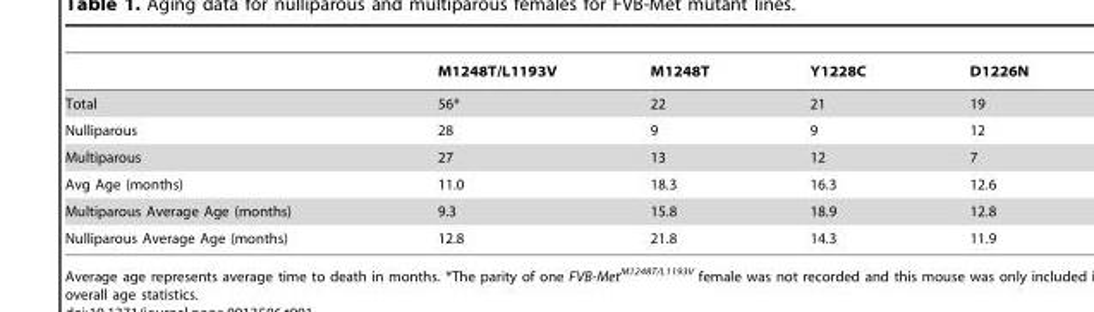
<table><thead><tr><td></td><td>M1248T/L1193V</td><td>M1248T</td><td>Y1228C</td><td>D1226N</td></tr></thead><tbody><tr><td>Total</td><td>56*</td><td>22</td><td>21</td><td>19</td></tr><tr><td>Nulliparous</td><td>28</td><td>9</td><td>9</td><td>12</td></tr><tr><td>Multiparous</td><td>27</td><td>13</td><td>12</td><td>7</td></tr><tr><td>Avg Age (months)</td><td>11.0</td><td>18.3</td><td>16.3</td><td>12.6</td></tr><tr><td>Multiparous Average Age (months)</td><td>9.3</td><td>15.8</td><td>18.9</td><td>12.8</td></tr><tr><td>Nulliparous Average Age (months)</td><td>12.8</td><td>21.8</td><td>14.3</td><td>11.9</td></tr></tbody></table>